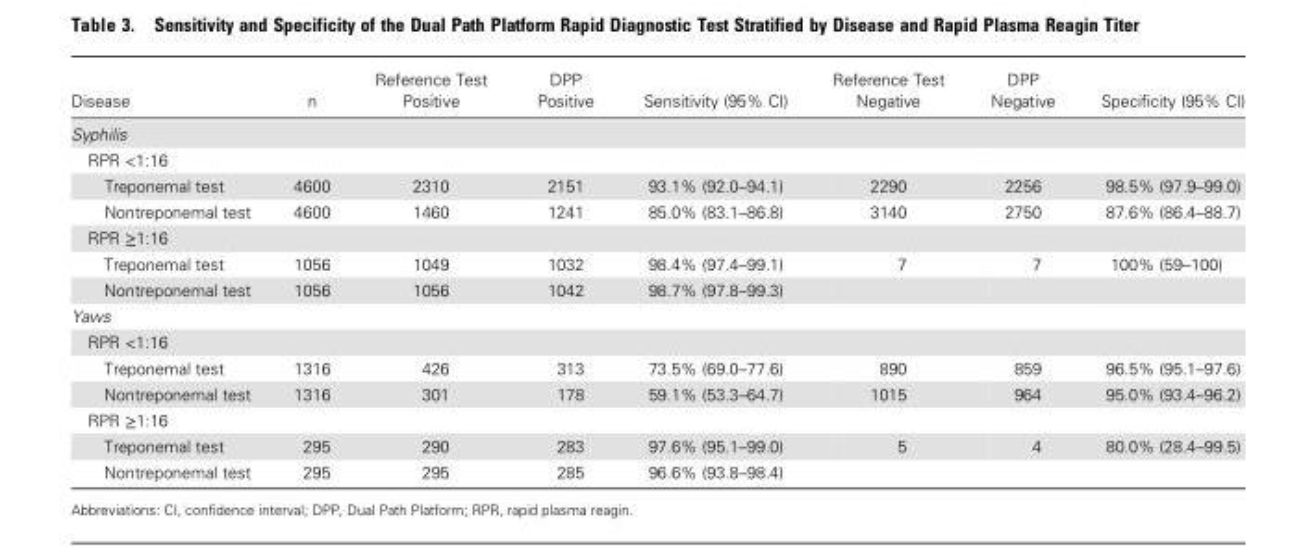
<table><thead><tr><td>Disease</td><td>n</td><td>Reference Test Positive</td><td>DPP Positive</td><td>Sensitivity (95% CI)</td><td>Reference Test Negative</td><td>DPP Negative</td><td>Specificity (95% CI)</td></tr></thead><tbody><tr><td colspan="8">Syphilis</td></tr><tr><td colspan="8">RPR &lt;1:16</td></tr><tr><td>Treponemal test</td><td>4600</td><td>2310</td><td>2151</td><td>93.1% (92.0–94.1)</td><td>2290</td><td>2256</td><td>98.5% (97.9–99.0)</td></tr><tr><td>Nontreponemal test</td><td>4600</td><td>1460</td><td>1241</td><td>85.0% (83.1–86.8)</td><td>3140</td><td>2750</td><td>87.6% (86.4–88.7)</td></tr><tr><td colspan="8">RPR ≥1:16</td></tr><tr><td>Treponemal test</td><td>1056</td><td>1049</td><td>1032</td><td>98.4% (97.4–99.1)</td><td>7</td><td>7</td><td>100% (59–100)</td></tr><tr><td>Nontreponemal test</td><td>1056</td><td>1056</td><td>1042</td><td>98.7% (97.8–99.3)</td><td></td><td></td><td></td></tr><tr><td colspan="8">Yaws</td></tr><tr><td colspan="8">RPR &lt;1:16</td></tr><tr><td>Treponemal test</td><td>1316</td><td>426</td><td>313</td><td>73.5% (69.0–77.6)</td><td>890</td><td>859</td><td>96.5% (95.1–97.6)</td></tr><tr><td>Nontreponemal test</td><td>1316</td><td>301</td><td>178</td><td>59.1% (53.3–64.7)</td><td>1015</td><td>964</td><td>95.0% (93.4–96.2)</td></tr><tr><td colspan="8">RPR ≥1:16</td></tr><tr><td>Treponemal test</td><td>295</td><td>290</td><td>283</td><td>97.6% (95.1–99.0)</td><td>5</td><td>4</td><td>80.0% (28.4–99.5)</td></tr><tr><td>Nontreponemal test</td><td>295</td><td>295</td><td>285</td><td>96.6% (93.8–98.4)</td><td></td><td></td><td></td></tr></tbody></table>